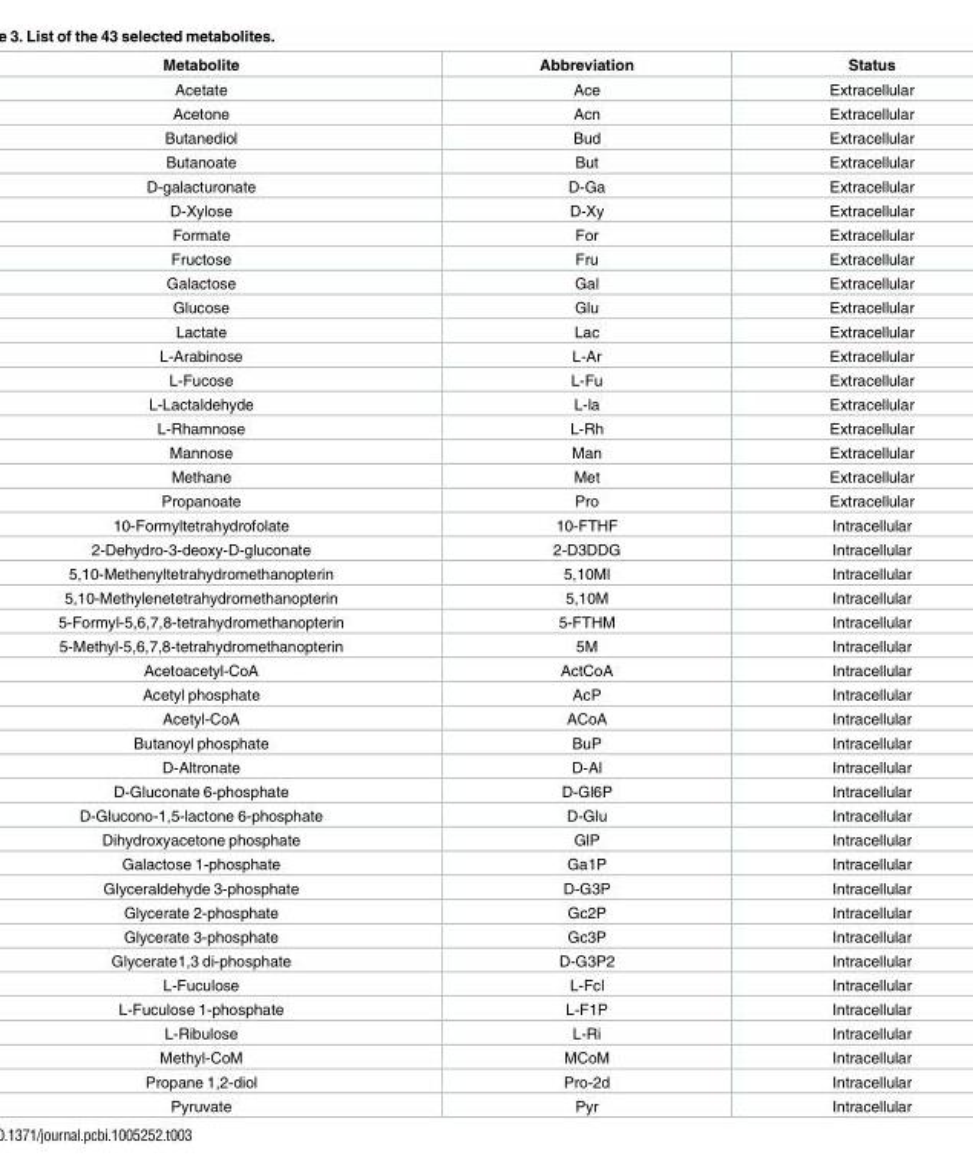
<table><thead><tr><td>Metabolite</td><td>Abbreviation</td><td>Status</td></tr></thead><tbody><tr><td>Acetate</td><td>Ace</td><td>Extracellular</td></tr><tr><td>Acetone</td><td>Acn</td><td>Extracellular</td></tr><tr><td>Butanediol</td><td>Bud</td><td>Extracellular</td></tr><tr><td>Butanoate</td><td>But</td><td>Extracellular</td></tr><tr><td>D-galacturonate</td><td>D-Ga</td><td>Extracellular</td></tr><tr><td>D-Xylose</td><td>D-Xy</td><td>Extracellular</td></tr><tr><td>Formate</td><td>For</td><td>Extracellular</td></tr><tr><td>Fructose</td><td>Fru</td><td>Extracellular</td></tr><tr><td>Galactose</td><td>Gal</td><td>Extracellular</td></tr><tr><td>Glucose</td><td>Glu</td><td>Extracellular</td></tr><tr><td>Lactate</td><td>Lac</td><td>Extracellular</td></tr><tr><td>L-Arabinose</td><td>L-Ar</td><td>Extracellular</td></tr><tr><td>L-Fucose</td><td>L-Fu</td><td>Extracellular</td></tr><tr><td>L-Lactaldehyde</td><td>L-la</td><td>Extracellular</td></tr><tr><td>L-Rhamnose</td><td>L-Rh</td><td>Extracellular</td></tr><tr><td>Mannose</td><td>Man</td><td>Extracellular</td></tr><tr><td>Methane</td><td>Met</td><td>Extracellular</td></tr><tr><td>Propanoate</td><td>Pro</td><td>Extracellular</td></tr><tr><td>10-Formyltetrahydrofolate</td><td>10-FTHF</td><td>Intracellular</td></tr><tr><td>2-Dehydro-3-deoxy-D-gluconate</td><td>2-D3DDG</td><td>Intracellular</td></tr><tr><td>5,10-Methenyltetrahydromethanopterin</td><td>5,10Ml</td><td>Intracellular</td></tr><tr><td>5,10-Methylenetetrahydromethanopterin</td><td>5,10M</td><td>Intracellular</td></tr><tr><td>5-Formyl-5,6,7,8-tetrahydromethanopterin</td><td>5-FTHM</td><td>Intracellular</td></tr><tr><td>5-Methyl-5,6,7,8-tetrahydromethanopterin</td><td>5M</td><td>Intracellular</td></tr><tr><td>Acetoacetyl-CoA</td><td>ActCoA</td><td>Intracellular</td></tr><tr><td>Acetyl phosphate</td><td>AcP</td><td>Intracellular</td></tr><tr><td>Acetyl-CoA</td><td>ACoA</td><td>Intracellular</td></tr><tr><td>Butanoyl phosphate</td><td>BuP</td><td>Intracellular</td></tr><tr><td>D-Altronate</td><td>D-Al</td><td>Intracellular</td></tr><tr><td>D-Gluconate 6-phosphate</td><td>D-Gl6P</td><td>Intracellular</td></tr><tr><td>D-Glucono-1,5-lactone 6-phosphate</td><td>D-Glu</td><td>Intracellular</td></tr><tr><td>Dihydroxyacetone phosphate</td><td>GlP</td><td>Intracellular</td></tr><tr><td>Galactose 1-phosphate</td><td>Ga1P</td><td>Intracellular</td></tr><tr><td>Glyceraldehyde 3-phosphate</td><td>D-G3P</td><td>Intracellular</td></tr><tr><td>Glycerate 2-phosphate</td><td>Gc2P</td><td>Intracellular</td></tr><tr><td>Glycerate 3-phosphate</td><td>Gc3P</td><td>Intracellular</td></tr><tr><td>Glycerate1,3 di-phosphate</td><td>D-G3P2</td><td>Intracellular</td></tr><tr><td>L-Fuculose</td><td>L-Fcl</td><td>Intracellular</td></tr><tr><td>L-Fuculose 1-phosphate</td><td>L-F1P</td><td>Intracellular</td></tr><tr><td>L-Ribulose</td><td>L-Ri</td><td>Intracellular</td></tr><tr><td>Methyl-CoM</td><td>MCoM</td><td>Intracellular</td></tr><tr><td>Propane 1,2-diol</td><td>Pro-2d</td><td>Intracellular</td></tr><tr><td>Pyruvate</td><td>Pyr</td><td>Intracellular</td></tr></tbody></table>